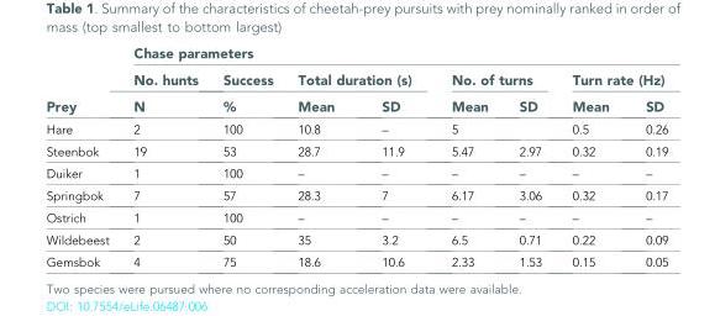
<table><thead><tr><td rowspan="3">Prey</td><td colspan="8">Chase parameters</td></tr><tr><td rowspan="2">No. hunts N</td><td rowspan="2">Success %</td><td colspan="2">Total duration (s)</td><td colspan="2">No. of turns</td><td colspan="2">Turn rate (Hz)</td></tr><tr><td>Mean</td><td>SD</td><td>Mean</td><td>SD</td><td>Mean</td><td>SD</td></tr></thead><tbody><tr><td>Hare</td><td>2</td><td>100</td><td>10.8</td><td>–</td><td>5</td><td></td><td>0.5</td><td>0.26</td></tr><tr><td>Steenbok</td><td>19</td><td>53</td><td>28.7</td><td>11.9</td><td>5.47</td><td>2.97</td><td>0.32</td><td>0.19</td></tr><tr><td>Duiker</td><td>1</td><td>100</td><td>–</td><td>–</td><td>–</td><td>–</td><td>–</td><td>–</td></tr><tr><td>Springbok</td><td>7</td><td>57</td><td>28.3</td><td>7</td><td>6.17</td><td>3.06</td><td>0.32</td><td>0.17</td></tr><tr><td>Ostrich</td><td>1</td><td>100</td><td>–</td><td>–</td><td>–</td><td>–</td><td>–</td><td>–</td></tr><tr><td>Wildebeest</td><td>2</td><td>50</td><td>35</td><td>3.2</td><td>6.5</td><td>0.71</td><td>0.22</td><td>0.09</td></tr><tr><td>Gemsbok</td><td>4</td><td>75</td><td>18.6</td><td>10.6</td><td>2.33</td><td>1.53</td><td>0.15</td><td>0.05</td></tr></tbody></table>